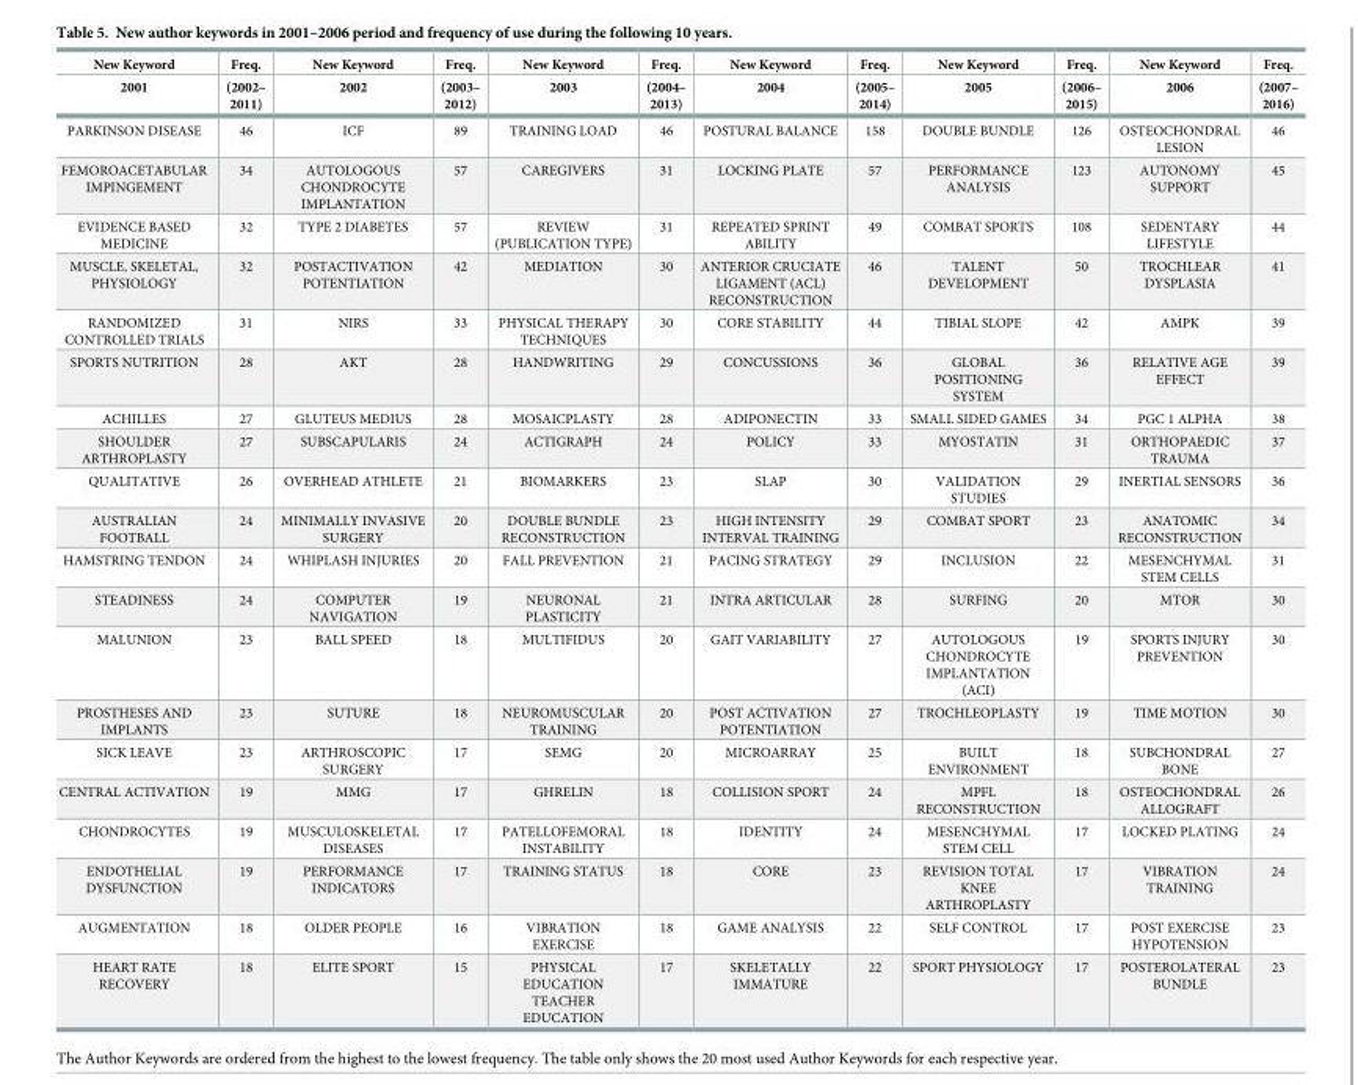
<table><thead><tr><td rowspan="2">New Keyword 2001</td><td rowspan="2">Freq. (2002– 2011)</td><td rowspan="2">New Keyword 2002</td><td rowspan="2">Freq. (2003– 2012)</td><td rowspan="2">New Keyword 2003</td><td rowspan="2">Freq. (2004– 2013)</td><td rowspan="2">New Keyword 2004</td><td rowspan="2">Freq. (2005– 2014)</td><td rowspan="2">New Keyword 2005</td><td rowspan="2">Freq. (2006– 2015)</td><td rowspan="2">New Keyword 2006</td><td rowspan="2">Freq. (2007– 2016)</td></tr><tr></tr></thead><tbody><tr><td>PARKINSON DISEASE</td><td>46</td><td>ICF</td><td>89</td><td>TRAINING LOAD</td><td>46</td><td>POSTURAL BALANCE</td><td>158</td><td>DOUBLE BUNDLE</td><td>126</td><td>OSTEOCHONDRAL LESION</td><td>46</td></tr><tr><td>FEMOROACETABULAR IMPINGEMENT</td><td>34</td><td>AUTOLOGOUS CHONDROCYTE IMPLANTATION</td><td>57</td><td>CAREGIVERS</td><td>31</td><td>LOCKING PLATE</td><td>57</td><td>PERFORMANCE ANALYSIS</td><td>123</td><td>AUTONOMY SUPPORT</td><td>45</td></tr><tr><td>EVIDENCE BASED MEDICINE</td><td>32</td><td>TYPE 2 DIABETES</td><td>57</td><td>REVIEW (PUBLICATION TYPE)</td><td>31</td><td>REPEATED SPRINT ABILITY</td><td>49</td><td>COMBAT SPORTS</td><td>108</td><td>SEDENTARY LIFESTYLE</td><td>44</td></tr><tr><td>MUSCLE, SKELETAL, PHYSIOLOGY</td><td>32</td><td>POSTACTIVATION POTENTIATION</td><td>42</td><td>MEDIATION</td><td>30</td><td>ANTERIOR CRUCIATE LIGAMENT (ACL) RECONSTRUCTION</td><td>46</td><td>TALENT DEVELOPMENT</td><td>50</td><td>TROCHLEAR DYSPLASIA</td><td>41</td></tr><tr><td>RANDOMIZED CONTROLLED TRIALS</td><td>31</td><td>NIRS</td><td>33</td><td>PHYSICAL THERAPY TECHNIQUES</td><td>30</td><td>CORE STABILITY</td><td>44</td><td>TIBIAL SLOPE</td><td>42</td><td>AMPK</td><td>39</td></tr><tr><td>SPORTS NUTRITION</td><td>28</td><td>AKT</td><td>28</td><td>HANDWRITING</td><td>29</td><td>CONCUSSIONS</td><td>36</td><td>GLOBAL POSITIONING SYSTEM</td><td>36</td><td>RELATIVE AGE EFFECT</td><td>39</td></tr><tr><td>ACHILLES</td><td>27</td><td>GLUTEUS MEDIUS</td><td>28</td><td>MOSAICPLASTY</td><td>28</td><td>ADIPONECTIN</td><td>33</td><td>SMALL SIDED GAMES</td><td>34</td><td>PGC 1 ALPHA</td><td>38</td></tr><tr><td>SHOULDER ARTHROPLASTY</td><td>27</td><td>SUBSCAPULARIS</td><td>24</td><td>ACTIGRAPH</td><td>24</td><td>POLICY</td><td>33</td><td>MYOSTATIN</td><td>31</td><td>ORTHOPAEDIC TRAUMA</td><td>37</td></tr><tr><td>QUALITATIVE</td><td>26</td><td>OVERHEAD ATHLETE</td><td>21</td><td>BIOMARKERS</td><td>23</td><td>SLAP</td><td>30</td><td>VALIDATION STUDIES</td><td>29</td><td>INERTIAL SENSORS</td><td>36</td></tr><tr><td>AUSTRALIAN FOOTBALL</td><td>24</td><td>MINIMALLY INVASIVE SURGERY</td><td>20</td><td>DOUBLE BUNDLE RECONSTRUCTION</td><td>23</td><td>HIGH INTENSITY INTERVAL TRAINING</td><td>29</td><td>COMBAT SPORT</td><td>23</td><td>ANATOMIC RECONSTRUCTION</td><td>34</td></tr><tr><td>HAMSTRING TENDON</td><td>24</td><td>WHIPLASH INJURIES</td><td>20</td><td>FALL PREVENTION</td><td>21</td><td>PACING STRATEGY</td><td>29</td><td>INCLUSION</td><td>22</td><td>MESENCHYMAL STEM CELLS</td><td>31</td></tr><tr><td>STEADINESS</td><td>24</td><td>COMPUTER NAVIGATION</td><td>19</td><td>NEURONAL PLASTICITY</td><td>21</td><td>INTRA ARTICULAR</td><td>28</td><td>SURFING</td><td>20</td><td>MTOR</td><td>30</td></tr><tr><td>MALUNION</td><td>23</td><td>BALL SPEED</td><td>18</td><td>MULTIFIDUS</td><td>20</td><td>GAIT VARIABILITY</td><td>27</td><td>AUTOLOGOUS CHONDROCYTE IMPLANTATION (ACI)</td><td>19</td><td>SPORTS INJURY PREVENTION</td><td>30</td></tr><tr><td>PROSTHESES AND IMPLANTS</td><td>23</td><td>SUTURE</td><td>18</td><td>NEUROMUSCULAR TRAINING</td><td>20</td><td>POST ACTIVATION POTENTIATION</td><td>27</td><td>TROCHLEOPLASTY</td><td>19</td><td>TIME MOTION</td><td>30</td></tr><tr><td>SICK LEAVE</td><td>23</td><td>ARTHROSCOPIC SURGERY</td><td>17</td><td>SEMG</td><td>20</td><td>MICROARRAY</td><td>25</td><td>BUILT ENVIRONMENT</td><td>18</td><td>SUBCHONDRAL BONE</td><td>27</td></tr><tr><td>CENTRAL ACTIVATION</td><td>19</td><td>MMG</td><td>17</td><td>GHRELIN</td><td>18</td><td>COLLISION SPORT</td><td>24</td><td>MPFL RECONSTRUCTION</td><td>18</td><td>OSTEOCHONDRAL ALLOGRAFT</td><td>26</td></tr><tr><td>CHONDROCYTES</td><td>19</td><td>MUSCULOSKELETAL DISEASES</td><td>17</td><td>PATELLOFEMORAL INSTABILITY</td><td>18</td><td>IDENTITY</td><td>24</td><td>MESENCHYMAL STEM CELL</td><td>17</td><td>LOCKED PLATING</td><td>24</td></tr><tr><td>ENDOTHELIAL DYSFUNCTION</td><td>19</td><td>PERFORMANCE INDICATORS</td><td>17</td><td>TRAINING STATUS</td><td>18</td><td>CORE</td><td>23</td><td>REVISION TOTAL KNEE ARTHROPLASTY</td><td>17</td><td>VIBRATION TRAINING</td><td>24</td></tr><tr><td>AUGMENTATION</td><td>18</td><td>OLDER PEOPLE</td><td>16</td><td>VIBRATION EXERCISE</td><td>18</td><td>GAME ANALYSIS</td><td>22</td><td>SELF CONTROL</td><td>17</td><td>POST EXERCISE HYPOTENSION</td><td>23</td></tr><tr><td>HEART RATE RECOVERY</td><td>18</td><td>ELITE SPORT</td><td>15</td><td>PHYSICAL EDUCATION TEACHER EDUCATION</td><td>17</td><td>SKELETALLY IMMATURE</td><td>22</td><td>SPORT PHYSIOLOGY</td><td>17</td><td>POSTEROLATERAL BUNDLE</td><td>23</td></tr></tbody></table>